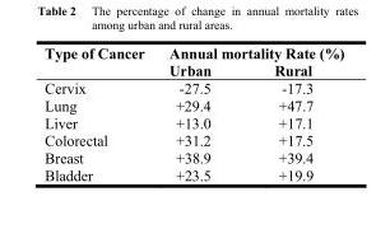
<table><thead><tr><td rowspan="2">Type of Cancer</td><td colspan="2">Annual mortality Rate (%)</td></tr><tr><td>Urban</td><td>Rural</td></tr></thead><tbody><tr><td>Cervix</td><td>-27.5</td><td>-17.3</td></tr><tr><td>Lung</td><td>+29.4</td><td>+47.7</td></tr><tr><td>Liver</td><td>+13.0</td><td>+17.1</td></tr><tr><td>Colorectal</td><td>+31.2</td><td>+17.5</td></tr><tr><td>Breast</td><td>+38.9</td><td>+39.4</td></tr><tr><td>Bladder</td><td>+23.5</td><td>+19.9</td></tr></tbody></table>